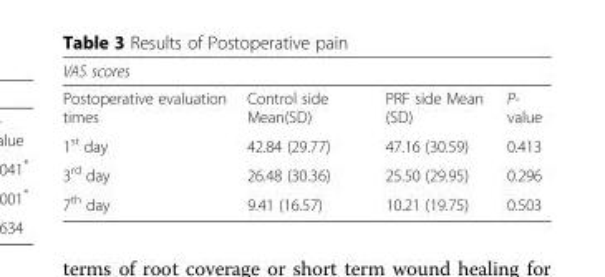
<table><thead><tr><td colspan="4">VAS scores</td></tr><tr><td>Postoperative evaluation times</td><td>Control side Mean(SD)</td><td>PRF side Mean (SD)</td><td>P- value</td></tr></thead><tbody><tr><td>1<sup>st</sup> day</td><td>42.84 (29.77)</td><td>47.16 (30.59)</td><td>0.413</td></tr><tr><td>3<sup>rd</sup> day</td><td>26.48 (30.36)</td><td>25.50 (29.95)</td><td>0.296</td></tr><tr><td>7<sup>th</sup> day</td><td>9.41 (16.57)</td><td>10.21 (19.75)</td><td>0.503</td></tr></tbody></table>